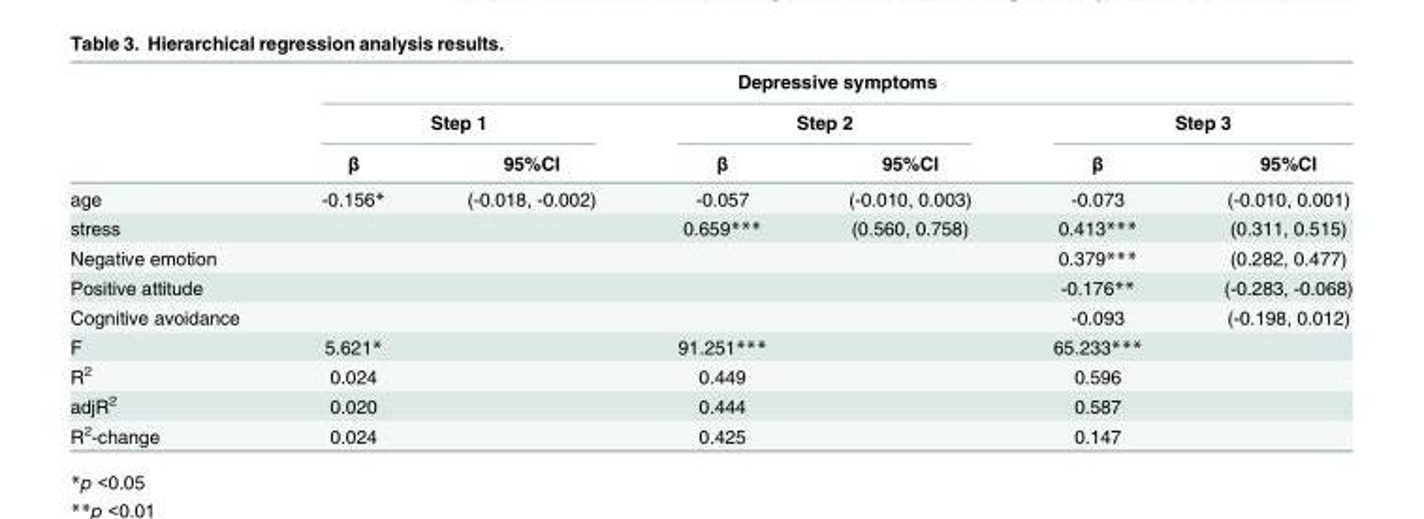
<table><thead><tr><td rowspan="3"></td><td colspan="6">Depressive symptoms</td></tr><tr><td colspan="2">Step 1</td><td colspan="2">Step 2</td><td colspan="2">Step 3</td></tr><tr><td>β</td><td>95%CI</td><td>β</td><td>95%CI</td><td>β</td><td>95%CI</td></tr></thead><tbody><tr><td>age</td><td>-0.156*</td><td>(-0.018, -0.002)</td><td>-0.057</td><td>(-0.010, 0.003)</td><td>-0.073</td><td>(-0.010, 0.001)</td></tr><tr><td>stress</td><td></td><td></td><td>0.659***</td><td>(0.560, 0.758)</td><td>0.413***</td><td>(0.311, 0.515)</td></tr><tr><td>Negative emotion</td><td></td><td></td><td></td><td></td><td>0.379***</td><td>(0.282, 0.477)</td></tr><tr><td>Positive attitude</td><td></td><td></td><td></td><td></td><td>-0.176**</td><td>(-0.283, -0.068)</td></tr><tr><td>Cognitive avoidance</td><td></td><td></td><td></td><td></td><td>-0.093</td><td>(-0.198, 0.012)</td></tr><tr><td>F</td><td>5.621*</td><td></td><td>91.251***</td><td></td><td>65.233***</td><td></td></tr><tr><td>R<sup>2</sup></td><td>0.024</td><td></td><td>0.449</td><td></td><td>0.596</td><td></td></tr><tr><td>adjR<sup>2</sup></td><td>0.020</td><td></td><td>0.444</td><td></td><td>0.587</td><td></td></tr><tr><td>R<sup>2</sup>-change</td><td>0.024</td><td></td><td>0.425</td><td></td><td>0.147</td><td></td></tr></tbody></table>